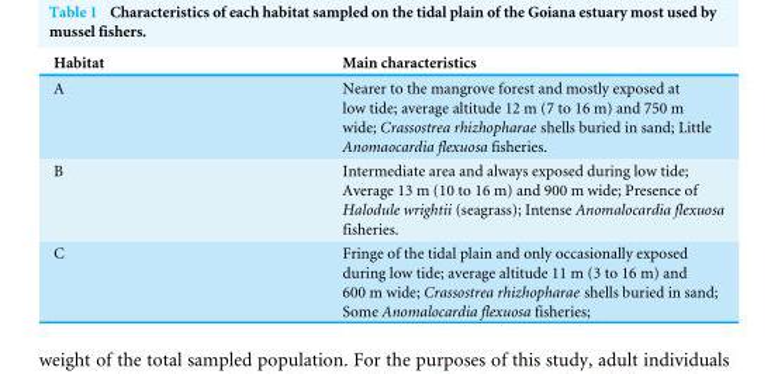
<table><thead><tr><td>Habitat</td><td>Main characteristics</td></tr></thead><tbody><tr><td>A</td><td>Nearer to the mangrove forest and mostly exposed at low tide; average altitude 12 m (7 to 16 m) and 750 m wide; Crassostrea rhizhopharae shells buried in sand; Little Anomaocardia flexuosa fisheries.</td></tr><tr><td>B</td><td>Intermediate area and always exposed during low tide; Average 13 m (10 to 16 m) and 900 m wide; Presence of Halodule wrightii (seagrass); Intense Anomalocardia flexuosa fisheries.</td></tr><tr><td>C</td><td>Fringe of the tidal plain and only occasionally exposed during low tide; average altitude 11 m (3 to 16 m) and 600 m wide; Crassostrea rhizhopharae shells buried in sand; Some Anomalocardia flexuosa fisheries;</td></tr></tbody></table>